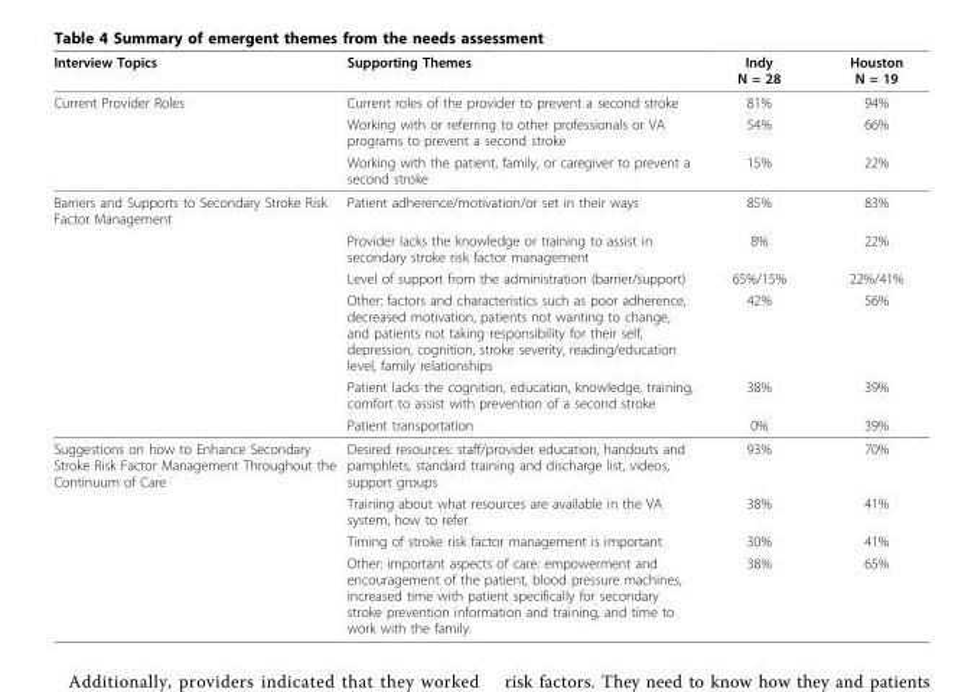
<table><thead><tr><td>Interview Topics</td><td>Supporting Themes</td><td>Indy N = 28</td><td>Houston N = 19</td></tr></thead><tbody><tr><td rowspan="3">Current Provider Roles</td><td>Current roles of the provider to prevent a second stroke</td><td>81%</td><td>94%</td></tr><tr><td>Working with or referring to other professionals or VA programs to prevent a second stroke</td><td>54%</td><td>66%</td></tr><tr><td>Working with the patient, family, or caregiver to prevent a second stroke</td><td>15%</td><td>22%</td></tr><tr><td rowspan="6">Barriers and Supports to Secondary Stroke Risk Factor Management</td><td>Patient adherence/motivation/or set in their ways</td><td>85%</td><td>83%</td></tr><tr><td>Provider lacks the knowledge or training to assist in secondary stroke risk factor management</td><td>8%</td><td>22%</td></tr><tr><td>Level of support from the administration (barrier/support)</td><td>65%/15%</td><td>22%/41%</td></tr><tr><td>Other: factors and characteristics such as poor adherence, decreased motivation, patients not wanting to change, and patients not taking responsibility for their self, depression, cognition, stroke severity, reading/education level, family relationships</td><td>42%</td><td>56%</td></tr><tr><td>Patient lacks the cognition, education, knowledge, training, comfort to assist with prevention of a second stroke</td><td>38%</td><td>39%</td></tr><tr><td>Patient transportation</td><td>0%</td><td>39%</td></tr><tr><td rowspan="4">Suggestions on how to Enhance Secondary Stroke Risk Factor Management Throughout the Continuum of Care</td><td>Desired resources: staff/provider education, handouts and pamphlets, standard training and discharge list, videos, support groups</td><td>93%</td><td>70%</td></tr><tr><td>Training about what resources are available in the VA system, how to refer</td><td>38%</td><td>41%</td></tr><tr><td>Timing of stroke risk factor management is important</td><td>30%</td><td>41%</td></tr><tr><td>Other: important aspects of care: empowerment and encouragement of the patient, blood pressure machines, increased time with patient specifically for secondary stroke prevention information and training, and time to work with the family.</td><td>38%</td><td>65%</td></tr></tbody></table>